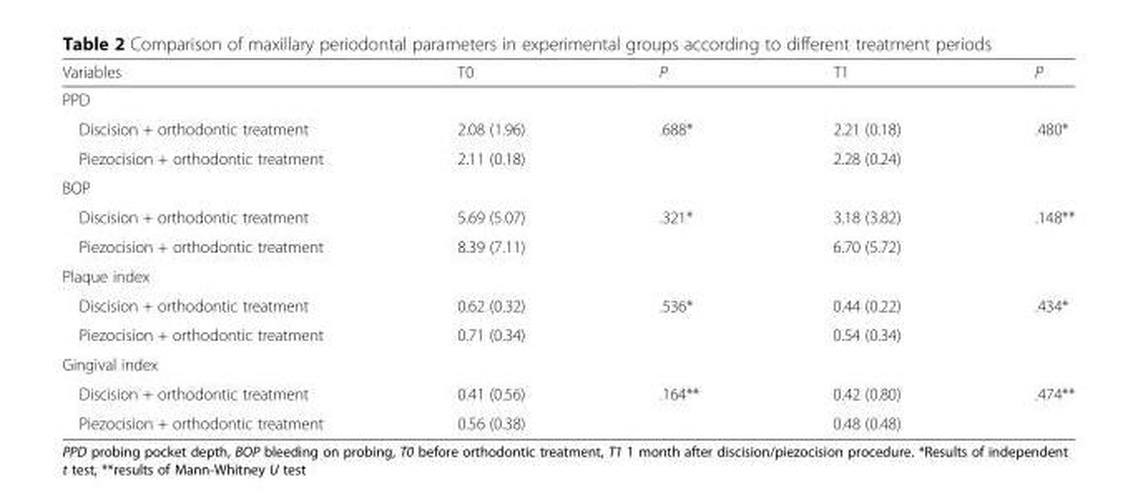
<table><thead><tr><td>Variables</td><td>T0</td><td>P</td><td>T1</td><td>P</td></tr></thead><tbody><tr><td colspan="5">PPD</td></tr><tr><td>Discision + orthodontic treatment</td><td>2.08 (1.96)</td><td rowspan="2">.688*</td><td>2.21 (0.18)</td><td rowspan="2">.480*</td></tr><tr><td>Piezocision + orthodontic treatment</td><td>2.11 (0.18)</td><td>2.28 (0.24)</td></tr><tr><td colspan="5">BOP</td></tr><tr><td>Discision + orthodontic treatment</td><td>5.69 (5.07)</td><td rowspan="2">.321*</td><td>3.18 (3.82)</td><td rowspan="2">.148**</td></tr><tr><td>Piezocision + orthodontic treatment</td><td>8.39 (7.11)</td><td>6.70 (5.72)</td></tr><tr><td colspan="5">Plaque index</td></tr><tr><td>Discision + orthodontic treatment</td><td>0.62 (0.32)</td><td rowspan="2">.536*</td><td>0.44 (0.22)</td><td rowspan="2">.434*</td></tr><tr><td>Piezocision + orthodontic treatment</td><td>0.71 (0.34)</td><td>0.54 (0.34)</td></tr><tr><td colspan="5">Gingival index</td></tr><tr><td>Discision + orthodontic treatment</td><td>0.41 (0.56)</td><td rowspan="2">.164**</td><td>0.42 (0.80)</td><td rowspan="2">.474**</td></tr><tr><td>Piezocision + orthodontic treatment</td><td>0.56 (0.38)</td><td>0.48 (0.48)</td></tr></tbody></table>